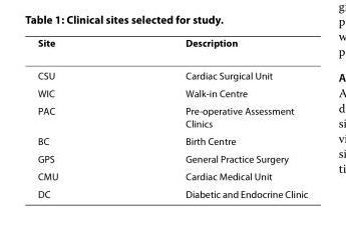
<table><thead><tr><td>Site</td><td>Description</td></tr></thead><tbody><tr><td>CSU</td><td>Cardiac Surgical Unit</td></tr><tr><td>WIC</td><td>Walk-in Centre</td></tr><tr><td>PAC</td><td>Pre-operative Assessment Clinics</td></tr><tr><td>BC</td><td>Birth Centre</td></tr><tr><td>GPS</td><td>General Practice Surgery</td></tr><tr><td>CMU</td><td>Cardiac Medical Unit</td></tr><tr><td>DC</td><td>Diabetic and Endocrine Clinic</td></tr></tbody></table>